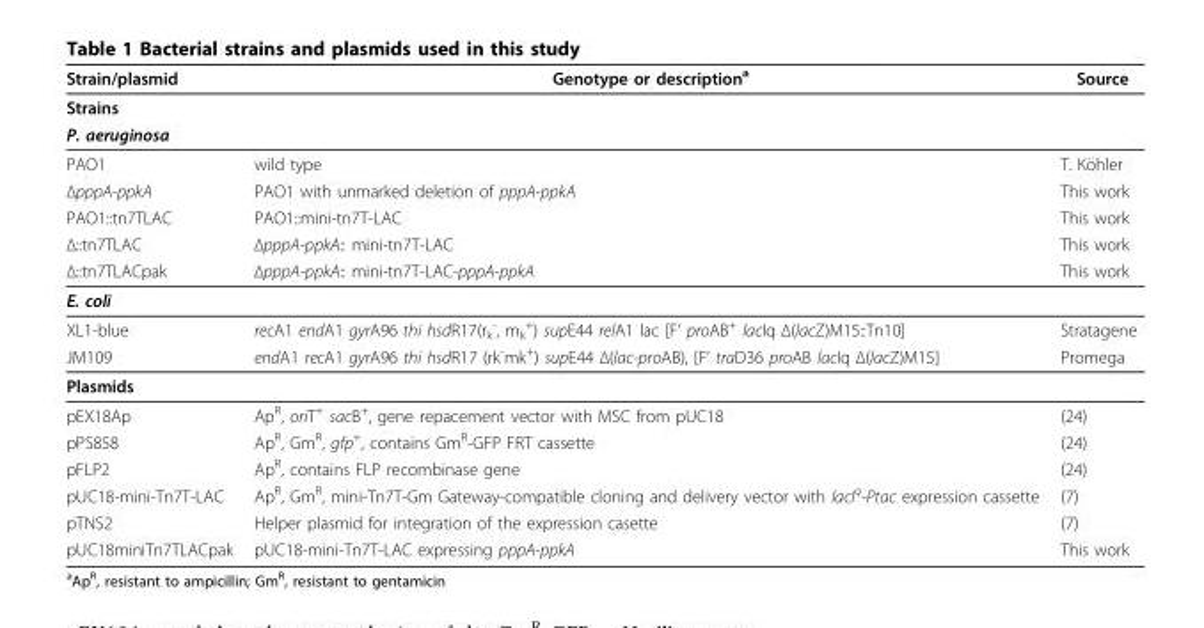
<table><thead><tr><td>Strain/plasmid</td><td>Genotype or description<sup>a</sup></td><td>Source</td></tr></thead><tbody><tr><td colspan="3">Strains</td></tr><tr><td colspan="3">P. aeruginosa</td></tr><tr><td>PAO1</td><td>wild type</td><td>T. Köhler</td></tr><tr><td>ΔpppA-ppkA</td><td>PAO1 with unmarked deletion of pppA-ppkA</td><td>This work</td></tr><tr><td>PAO1::tn7TLAC</td><td>PAO1::mini-tn7T-LAC</td><td>This work</td></tr><tr><td>Δ::tn7TLAC</td><td>ΔpppA-ppkA:: mini-tn7T-LAC</td><td>This work</td></tr><tr><td>Δ::tn7TLACpak</td><td>ΔpppA-ppkA:: mini-tn7T-LAC-pppA-ppkA</td><td>This work</td></tr><tr><td colspan="3">E. coli</td></tr><tr><td>XL1-blue</td><td>recA1 endA1 gyrA96 thi hsdR17(r<sub>k</sub> <sup>-</sup>, m<sub>k</sub> <sup>+</sup>) supE44 relA1 lac [F’ proAB<sup>+</sup> lacIq Δ(lacZ)M15::Tn10]</td><td>Stratagene</td></tr><tr><td>JM109</td><td>endA1 recA1 gyrA96 thi hsdR17 (rk<sup>-</sup>mk<sup>+</sup>) supE44 Δ(lac-proAB), [F’ traD36 proAB lacIq Δ(lacZ)M15]</td><td>Promega</td></tr><tr><td colspan="3">Plasmids</td></tr><tr><td>pEX18Ap</td><td>Ap<sup>R</sup>, oriT<sup>+</sup> sacB<sup>+</sup>, gene repacement vector with MSC from pUC18</td><td>(24)</td></tr><tr><td>pPS858</td><td>Ap<sup>R</sup>, Gm<sup>R</sup>, gfp<sup>+</sup>, contains Gm<sup>R</sup>-GFP FRT cassette</td><td>(24)</td></tr><tr><td>pFLP2</td><td>Ap<sup>R</sup>, contains FLP recombinase gene</td><td>(24)</td></tr><tr><td>pUC18-mini-Tn7T-LAC</td><td>Ap<sup>R</sup>, Gm<sup>R</sup>, mini-Tn7T-Gm Gateway-compatible cloning and delivery vector with lacI<sup>q</sup>-Ptac expression cassette</td><td>(7)</td></tr><tr><td>pTNS2</td><td>Helper plasmid for integration of the expression casette</td><td>(7)</td></tr><tr><td>pUC18miniTn7TLACpak</td><td>pUC18-mini-Tn7T-LAC expressing pppA-ppkA</td><td>This work</td></tr></tbody></table>